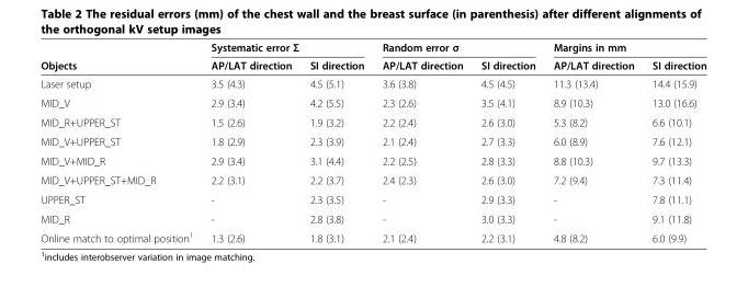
<table><thead><tr><td rowspan="2">Objects</td><td colspan="2">Systematic error Σ</td><td colspan="2">Random error σ</td><td colspan="2">Margins in mm</td></tr><tr><td>AP/LAT direction</td><td>SI direction</td><td>AP/LAT direction</td><td>SI direction</td><td>AP/LAT direction</td><td>SI direction</td></tr></thead><tbody><tr><td>Laser setup</td><td>3.5 (4.3)</td><td>4.5 (5.1)</td><td>3.6 (3.8)</td><td>4.5 (4.5)</td><td>11.3 (13.4)</td><td>14.4 (15.9)</td></tr><tr><td>MID_V</td><td>2.9 (3.4)</td><td>4.2 (5.5)</td><td>2.3 (2.6)</td><td>3.5 (4.1)</td><td>8.9 (10.3)</td><td>13.0 (16.6)</td></tr><tr><td>MID_R+UPPER_ST</td><td>1.5 (2.6)</td><td>1.9 (3.2)</td><td>2.2 (2.4)</td><td>2.6 (3.0)</td><td>5.3 (8.2)</td><td>6.6 (10.1)</td></tr><tr><td>MID_V+UPPER_ST</td><td>1.8 (2.9)</td><td>2.3 (3.9)</td><td>2.1 (2.4)</td><td>2.7 (3.3)</td><td>6.0 (8.9)</td><td>7.6 (12.1)</td></tr><tr><td>MID_V+MID_R</td><td>2.9 (3.4)</td><td>3.1 (4.4)</td><td>2.2 (2.5)</td><td>2.8 (3.3)</td><td>8.8 (10.3)</td><td>9.7 (13.3)</td></tr><tr><td>MID_V+UPPER_ST+MID_R</td><td>2.2 (3.1)</td><td>2.2 (3.7)</td><td>2.4 (2.3)</td><td>2.6 (3.0)</td><td>7.2 (9.4)</td><td>7.3 (11.4)</td></tr><tr><td>UPPER_ST</td><td>-</td><td>2.3 (3.5)</td><td>-</td><td>2.9 (3.3)</td><td>-</td><td>7.8 (11.1)</td></tr><tr><td>MID_R</td><td>-</td><td>2.8 (3.8)</td><td>-</td><td>3.0 (3.3)</td><td>-</td><td>9.1 (11.8)</td></tr><tr><td>Online match to optimal position<sup>1</sup></td><td>1.3 (2.6)</td><td>1.8 (3.1)</td><td>2.1 (2.4)</td><td>2.2 (3.1)</td><td>4.8 (8.2)</td><td>6.0 (9.9)</td></tr></tbody></table>